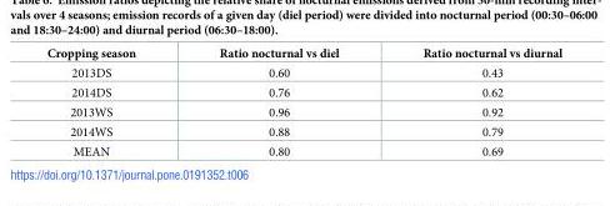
<table><thead><tr><td>Cropping season</td><td>Ratio nocturnal vs diel</td><td>Ratio nocturnal vs diurnal</td></tr></thead><tbody><tr><td>2013DS</td><td>0.60</td><td>0.43</td></tr><tr><td>2014DS</td><td>0.76</td><td>0.62</td></tr><tr><td>2013WS</td><td>0.96</td><td>0.92</td></tr><tr><td>2014WS</td><td>0.88</td><td>0.79</td></tr><tr><td>MEAN</td><td>0.80</td><td>0.69</td></tr></tbody></table>